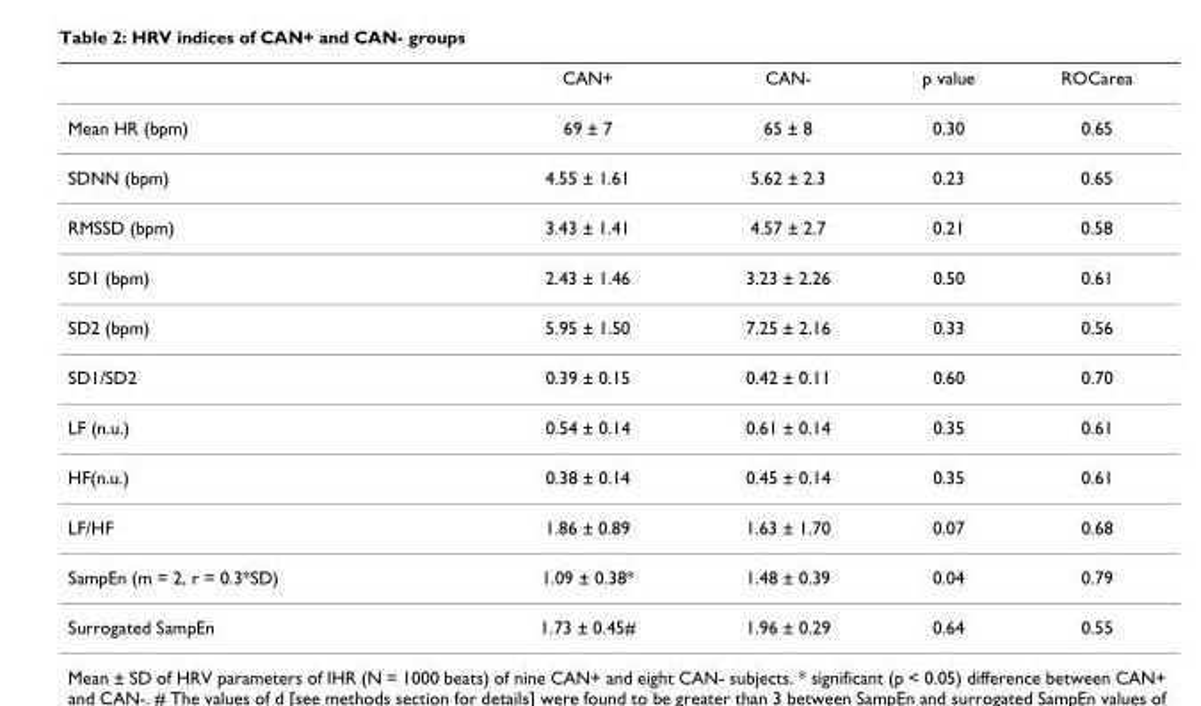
<table><thead><tr><td></td><td>CAN+</td><td>CAN-</td><td>p value</td><td>ROCarea</td></tr></thead><tbody><tr><td>Mean HR (bpm)</td><td>69 ± 7</td><td>65 ± 8</td><td>0.30</td><td>0.65</td></tr><tr><td>SDNN (bpm)</td><td>4.55 ± 1.61</td><td>5.62 ± 2.3</td><td>0.23</td><td>0.65</td></tr><tr><td>RMSSD (bpm)</td><td>3.43 ± 1.41</td><td>4.57 ± 2.7</td><td>0.21</td><td>0.58</td></tr><tr><td>SD1 (bpm)</td><td>2.43 ± 1.46</td><td>3.23 ± 2.26</td><td>0.50</td><td>0.61</td></tr><tr><td>SD2 (bpm)</td><td>5.95 ± 1.50</td><td>7.25 ± 2.16</td><td>0.33</td><td>0.56</td></tr><tr><td>SD1/SD2</td><td>0.39 ± 0.15</td><td>0.42 ± 0.11</td><td>0.60</td><td>0.70</td></tr><tr><td>LF (n.u.)</td><td>0.54 ± 0.14</td><td>0.61 ± 0.14</td><td>0.35</td><td>0.61</td></tr><tr><td>HF(n.u.)</td><td>0.38 ± 0.14</td><td>0.45 ± 0.14</td><td>0.35</td><td>0.61</td></tr><tr><td>LF/HF</td><td>1.86 ± 0.89</td><td>1.63 ± 1.70</td><td>0.07</td><td>0.68</td></tr><tr><td>SampEn (m = 2, r = 0.3*SD)</td><td>1.09 ± 0.38*</td><td>1.48 ± 0.39</td><td>0.04</td><td>0.79</td></tr><tr><td>Surrogated SampEn</td><td>1.73 ± 0.45#</td><td>1.96 ± 0.29</td><td>0.64</td><td>0.55</td></tr></tbody></table>